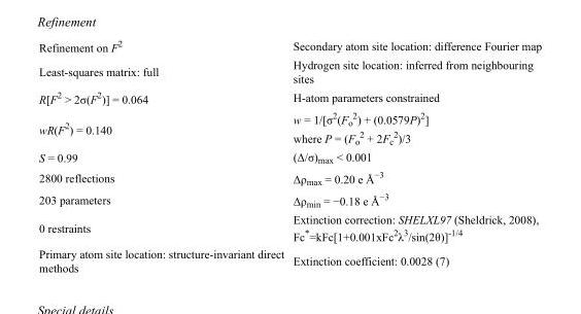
<table><tbody><tr><td>Refinement on F<sup>2</sup></td><td>Secondary atom site location: difference Fourier map</td></tr><tr><td>Least-squares matrix: full</td><td>Hydrogen site location: inferred from neighbouring sites</td></tr><tr><td>R[F<sup>2</sup> &gt; 2σ(F<sup>2</sup>)] = 0.064</td><td>H-atom parameters constrained</td></tr><tr><td>wR(F<sup>2</sup>) = 0.140</td><td>w = 1/[σ<sup>2</sup>(F<sub>o</sub> <sup>2</sup>) + (0.0579P)<sup>2</sup>] where P = (F<sub>o</sub> <sup>2</sup> + 2F<sub>c</sub> <sup>2</sup>)/3</td></tr><tr><td>S = 0.99</td><td>(Δ/σ)<sub>max</sub> &lt; 0.001</td></tr><tr><td>2800 reflections</td><td>Δρ<sub>max</sub> = 0.20 e Å<sup>−3</sup></td></tr><tr><td>203 parameters</td><td>Δρ<sub>min</sub> = −0.18 e Å<sup>−3</sup></td></tr><tr><td>0 restraints</td><td>Extinction correction: SHELXL97 (Sheldrick, 2008), Fc*=kFc[1+0.001xFc<sup>2</sup>λ<sup>3</sup>/sin(2θ)]<sup>-1/4</sup></td></tr><tr><td>Primary atom site location: structure-invariant direct methods</td><td>Extinction coefficient: 0.0028 (7)</td></tr></tbody></table>